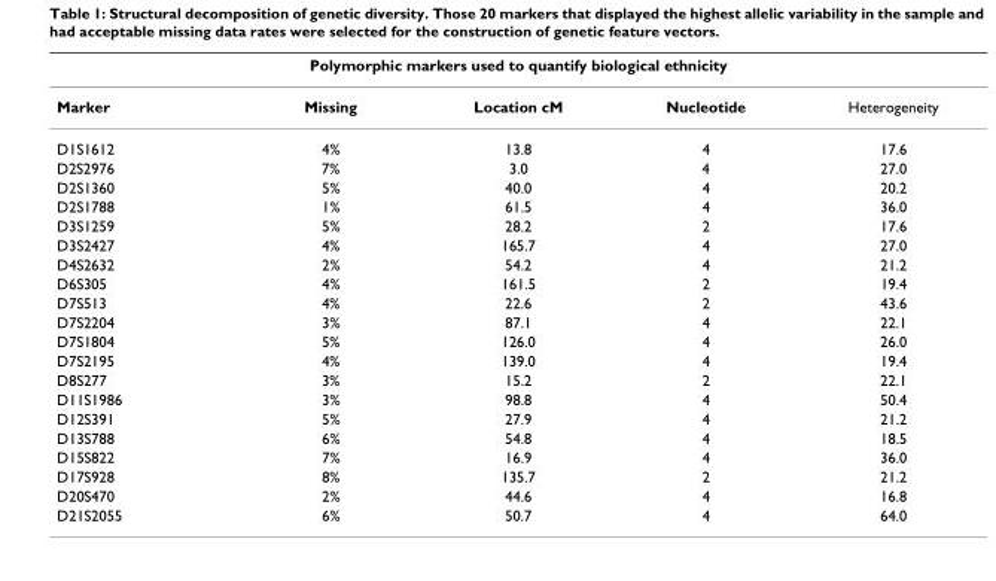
<table><thead><tr><td colspan="5">Polymorphic markers used to quantify biological ethnicity</td></tr><tr><td>Marker</td><td>Missing</td><td>Location cM</td><td>Nucleotide</td><td>Heterogeneity</td></tr></thead><tbody><tr><td>D1S1612</td><td>4%</td><td>13.8</td><td>4</td><td>17.6</td></tr><tr><td>D2S2976</td><td>7%</td><td>3.0</td><td>4</td><td>27.0</td></tr><tr><td>D2S1360</td><td>5%</td><td>40.0</td><td>4</td><td>20.2</td></tr><tr><td>D2S1788</td><td>1%</td><td>61.5</td><td>4</td><td>36.0</td></tr><tr><td>D3S1259</td><td>5%</td><td>28.2</td><td>2</td><td>17.6</td></tr><tr><td>D3S2427</td><td>4%</td><td>165.7</td><td>4</td><td>27.0</td></tr><tr><td>D4S2632</td><td>2%</td><td>54.2</td><td>4</td><td>21.2</td></tr><tr><td>D6S305</td><td>4%</td><td>161.5</td><td>2</td><td>19.4</td></tr><tr><td>D7S513</td><td>4%</td><td>22.6</td><td>2</td><td>43.6</td></tr><tr><td>D7S2204</td><td>3%</td><td>87.1</td><td>4</td><td>22.1</td></tr><tr><td>D7S1804</td><td>5%</td><td>126.0</td><td>4</td><td>26.0</td></tr><tr><td>D7S2195</td><td>4%</td><td>139.0</td><td>4</td><td>19.4</td></tr><tr><td>D8S277</td><td>3%</td><td>15.2</td><td>2</td><td>22.1</td></tr><tr><td>D11S1986</td><td>3%</td><td>98.8</td><td>4</td><td>50.4</td></tr><tr><td>D12S391</td><td>5%</td><td>27.9</td><td>4</td><td>21.2</td></tr><tr><td>D13S788</td><td>6%</td><td>54.8</td><td>4</td><td>18.5</td></tr><tr><td>D15S822</td><td>7%</td><td>16.9</td><td>4</td><td>36.0</td></tr><tr><td>D17S928</td><td>8%</td><td>135.7</td><td>2</td><td>21.2</td></tr><tr><td>D20S470</td><td>2%</td><td>44.6</td><td>4</td><td>16.8</td></tr><tr><td>D21S2055</td><td>6%</td><td>50.7</td><td>4</td><td>64.0</td></tr></tbody></table>